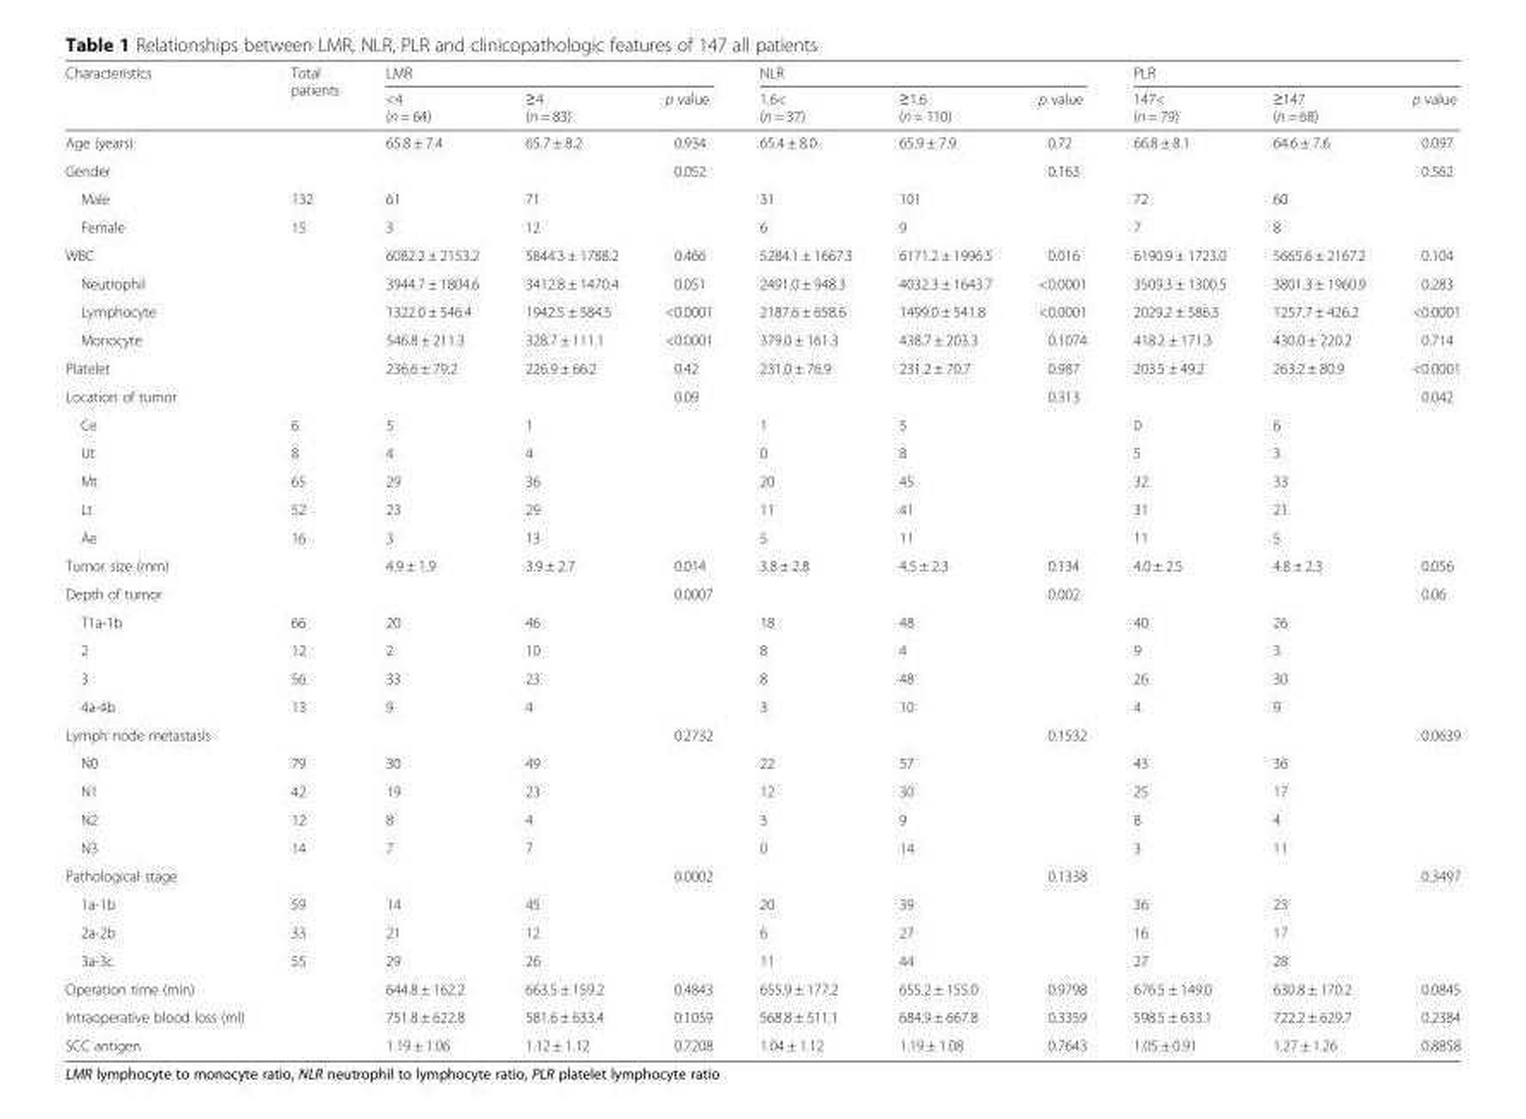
<table><thead><tr><td rowspan="2">Characteristics</td><td rowspan="2">Total patients</td><td colspan="3">LMR</td><td colspan="3">NLR</td><td colspan="3">PLR</td></tr><tr><td>&lt;4 (n = 64)</td><td>≥4 (n = 83)</td><td>p value</td><td>1.6&lt; (n = 37)</td><td>≥1.6 (n = 110)</td><td>p value</td><td>147&lt; (n = 79)</td><td>≥147 (n = 68)</td><td>p value</td></tr></thead><tbody><tr><td>Age (years)</td><td></td><td>65.8 ± 7.4</td><td>65.7 ± 8.2</td><td>0.934</td><td>65.4 ± 8.0</td><td>65.9 ± 7.9</td><td>0.72</td><td>66.8 ± 8.1</td><td>64.6 ± 7.6</td><td>0.097</td></tr><tr><td>Gender</td><td></td><td></td><td></td><td>0.052</td><td></td><td></td><td>0.163</td><td></td><td></td><td>0.562</td></tr><tr><td>Male</td><td>132</td><td>61</td><td>71</td><td></td><td>31</td><td>101</td><td></td><td>72</td><td>60</td><td></td></tr><tr><td>Female</td><td>15</td><td>3</td><td>12</td><td></td><td>6</td><td>9</td><td></td><td>7</td><td>8</td><td></td></tr><tr><td>WBC</td><td></td><td>6082.2 ± 2153.2</td><td>5844.3 ± 1788.2</td><td>0.466</td><td>5284.1 ± 1667.3</td><td>6171.2 ± 1996.5</td><td>0.016</td><td>6190.9 ± 1723.0</td><td>5665.6 ± 2167.2</td><td>0.104</td></tr><tr><td>Neutrophil</td><td></td><td>3944.7 ± 1804.6</td><td>3412.8 ± 1470.4</td><td>0.051</td><td>2491.0 ± 948.3</td><td>4032.3 ± 1643.7</td><td>&lt;0.0001</td><td>3509.3 ± 1300.5</td><td>3801.3 ± 1960.9</td><td>0.283</td></tr><tr><td>Lymphocyte</td><td></td><td>1322.0 ± 546.4</td><td>1942.5 ± 584.5</td><td>&lt;0.0001</td><td>2187.6 ± 658.6</td><td>1499.0 ± 541.8</td><td>&lt;0.0001</td><td>2029.2 ± 586.3</td><td>1257.7 ± 426.2</td><td>&lt;0.0001</td></tr><tr><td>Monocyte</td><td></td><td>546.8 ± 211.3</td><td>328.7 ± 111.1</td><td>&lt;0.0001</td><td>379.0 ± 161.3</td><td>438.7 ± 203.3</td><td>0.1074</td><td>418.2 ± 171.3</td><td>430.0 ± 220.2</td><td>0.714</td></tr><tr><td>Platelet</td><td></td><td>236.6 ± 79.2</td><td>226.9 ± 66.2</td><td>0.42</td><td>231.0 ± 76.9</td><td>231.2 ± 70.7</td><td>0.987</td><td>203.5 ± 49.2</td><td>263.2 ± 80.9</td><td>&lt;0.0001</td></tr><tr><td>Location of tumor</td><td></td><td></td><td></td><td>0.09</td><td></td><td></td><td>0.313</td><td></td><td></td><td>0.042</td></tr><tr><td>Ce</td><td>6</td><td>5</td><td>1</td><td></td><td>1</td><td>5</td><td></td><td>0</td><td>6</td><td></td></tr><tr><td>Ut</td><td>8</td><td>4</td><td>4</td><td></td><td>0</td><td>8</td><td></td><td>5</td><td>3</td><td></td></tr><tr><td>Mt</td><td>65</td><td>29</td><td>36</td><td></td><td>20</td><td>45</td><td></td><td>32</td><td>33</td><td></td></tr><tr><td>Lt</td><td>52</td><td>23</td><td>29</td><td></td><td>11</td><td>41</td><td></td><td>31</td><td>21</td><td></td></tr><tr><td>Ae</td><td>16</td><td>3</td><td>13</td><td></td><td>5</td><td>11</td><td></td><td>11</td><td>5</td><td></td></tr><tr><td>Tumor size (mm)</td><td></td><td>4.9 ± 1.9</td><td>3.9 ± 2.7</td><td>0.014</td><td>3.8 ± 2.8</td><td>4.5 ± 2.3</td><td>0.134</td><td>4.0 ± 2.5</td><td>4.8 ± 2.3</td><td>0.056</td></tr><tr><td>Depth of tumor</td><td></td><td></td><td></td><td>0.0007</td><td></td><td></td><td>0.002</td><td></td><td></td><td>0.06</td></tr><tr><td>T1a-1b</td><td>66</td><td>20</td><td>46</td><td></td><td>18</td><td>48</td><td></td><td>40</td><td>26</td><td></td></tr><tr><td>2</td><td>12</td><td>2</td><td>10</td><td></td><td>8</td><td>4</td><td></td><td>9</td><td>3</td><td></td></tr><tr><td>3</td><td>56</td><td>33</td><td>23</td><td></td><td>8</td><td>48</td><td></td><td>26</td><td>30</td><td></td></tr><tr><td>4a-4b</td><td>13</td><td>9</td><td>4</td><td></td><td>3</td><td>10</td><td></td><td>4</td><td>9</td><td></td></tr><tr><td>Lymph node metastasis</td><td></td><td></td><td></td><td>0.2732</td><td></td><td></td><td>0.1532</td><td></td><td></td><td>0.0639</td></tr><tr><td>N0</td><td>79</td><td>30</td><td>49</td><td></td><td>22</td><td>57</td><td></td><td>43</td><td>36</td><td></td></tr><tr><td>N1</td><td>42</td><td>19</td><td>23</td><td></td><td>12</td><td>30</td><td></td><td>25</td><td>17</td><td></td></tr><tr><td>N2</td><td>12</td><td>8</td><td>4</td><td></td><td>3</td><td>9</td><td></td><td>8</td><td>4</td><td></td></tr><tr><td>N3</td><td>14</td><td>7</td><td>7</td><td></td><td>0</td><td>14</td><td></td><td>3</td><td>11</td><td></td></tr><tr><td>Pathological stage</td><td></td><td></td><td></td><td>0.0002</td><td></td><td></td><td>0.1338</td><td></td><td></td><td>0.3497</td></tr><tr><td>1a-1b</td><td>59</td><td>14</td><td>45</td><td></td><td>20</td><td>39</td><td></td><td>36</td><td>23</td><td></td></tr><tr><td>2a-2b</td><td>33</td><td>21</td><td>12</td><td></td><td>6</td><td>27</td><td></td><td>16</td><td>17</td><td></td></tr><tr><td>3a-3c</td><td>55</td><td>29</td><td>26</td><td></td><td>11</td><td>44</td><td></td><td>27</td><td>28</td><td></td></tr><tr><td>Operation time (min)</td><td></td><td>644.8 ± 162.2</td><td>663.5 ± 159.2</td><td>0.4843</td><td>655.9 ± 177.2</td><td>655.2 ± 155.0</td><td>0.9798</td><td>676.5 ± 149.0</td><td>630.8 ± 170.2</td><td>0.0845</td></tr><tr><td>Intraoperative blood loss (ml)</td><td></td><td>751.8 ± 622.8</td><td>581.6 ± 633.4</td><td>0.1059</td><td>568.8 ± 511.1</td><td>684.9 ± 667.8</td><td>0.3359</td><td>598.5 ± 633.1</td><td>722.2 ± 629.7</td><td>0.2384</td></tr><tr><td>SCC antigen</td><td></td><td>1.19 ± 1.06</td><td>1.12 ± 1.12</td><td>0.7208</td><td>1.04 ± 1.12</td><td>1.19 ± 1.08</td><td>0.7643</td><td>1.05 ± 0.91</td><td>1.27 ± 1.26</td><td>0.8858</td></tr></tbody></table>